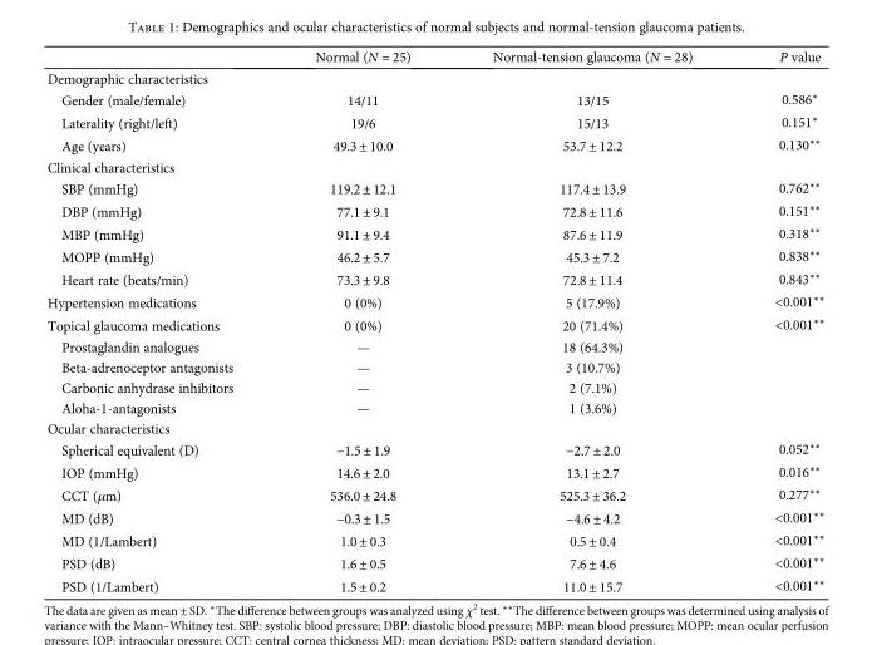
<table><thead><tr><td></td><td>Normal (N = 25)</td><td>Normal-tension glaucoma (N = 28)</td><td>P value</td></tr></thead><tbody><tr><td colspan="4">Demographic characteristics</td></tr><tr><td>Gender (male/female)</td><td>14/11</td><td>13/15</td><td>0.586∗</td></tr><tr><td>Laterality (right/left)</td><td>19/6</td><td>15/13</td><td>0.151∗</td></tr><tr><td>Age (years)</td><td>49.3 ± 10.0</td><td>53.7 ± 12.2</td><td>0.130∗∗</td></tr><tr><td colspan="4">Clinical characteristics</td></tr><tr><td>SBP (mmHg)</td><td>119.2 ± 12.1</td><td>117.4 ± 13.9</td><td>0.762∗∗</td></tr><tr><td>DBP (mmHg)</td><td>77.1 ± 9.1</td><td>72.8 ± 11.6</td><td>0.151∗∗</td></tr><tr><td>MBP (mmHg)</td><td>91.1 ± 9.4</td><td>87.6 ± 11.9</td><td>0.318∗∗</td></tr><tr><td>MOPP (mmHg)</td><td>46.2 ± 5.7</td><td>45.3 ± 7.2</td><td>0.838∗∗</td></tr><tr><td>Heart rate (beats/min)</td><td>73.3 ± 9.8</td><td>72.8 ± 11.4</td><td>0.843∗∗</td></tr><tr><td>Hypertension medications</td><td>0 (0%)</td><td>5 (17.9%)</td><td>&lt;0.001∗∗</td></tr><tr><td>Topical glaucoma medications</td><td>0 (0%)</td><td>20 (71.4%)</td><td>&lt;0.001∗∗</td></tr><tr><td>Prostaglandin analogues</td><td>—</td><td>18 (64.3%)</td><td></td></tr><tr><td>Beta-adrenoceptor antagonists</td><td>—</td><td>3 (10.7%)</td><td></td></tr><tr><td>Carbonic anhydrase inhibitors</td><td>—</td><td>2 (7.1%)</td><td></td></tr><tr><td>Aloha-1-antagonists</td><td>—</td><td>1 (3.6%)</td><td></td></tr><tr><td colspan="4">Ocular characteristics</td></tr><tr><td>Spherical equivalent (D)</td><td>−1.5 ± 1.9</td><td>−2.7 ± 2.0</td><td>0.052∗∗</td></tr><tr><td>IOP (mmHg)</td><td>14.6 ± 2.0</td><td>13.1 ± 2.7</td><td>0.016∗∗</td></tr><tr><td>CCT (μm)</td><td>536.0 ± 24.8</td><td>525.3 ± 36.2</td><td>0.277∗∗</td></tr><tr><td>MD (dB)</td><td>−0.3 ± 1.5</td><td>−4.6 ± 4.2</td><td>&lt;0.001∗∗</td></tr><tr><td>MD (1/Lambert)</td><td>1.0 ± 0.3</td><td>0.5 ± 0.4</td><td>&lt;0.001∗∗</td></tr><tr><td>PSD (dB)</td><td>1.6 ± 0.5</td><td>7.6 ± 4.6</td><td>&lt;0.001∗∗</td></tr><tr><td>PSD (1/Lambert)</td><td>1.5 ± 0.2</td><td>11.0 ± 15.7</td><td>&lt;0.001∗∗</td></tr></tbody></table>